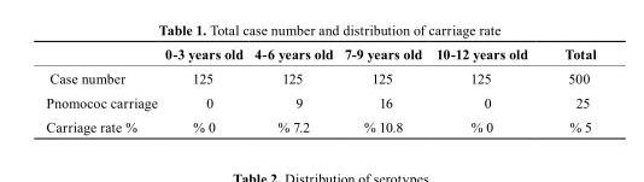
<table><thead><tr><td></td><td>0-3 years old</td><td>4-6 years old</td><td>7-9 years old</td><td>10-12 years old</td><td>total</td></tr></thead><tbody><tr><td>Case number</td><td>125</td><td>125</td><td>125</td><td>125</td><td>500</td></tr><tr><td>Pnomococ carriage</td><td>0</td><td>9</td><td>16</td><td>0</td><td>25</td></tr><tr><td>Carriage rate %</td><td>% 0</td><td>% 7.2</td><td>% 10.8</td><td>% 0</td><td>% 5</td></tr></tbody></table>